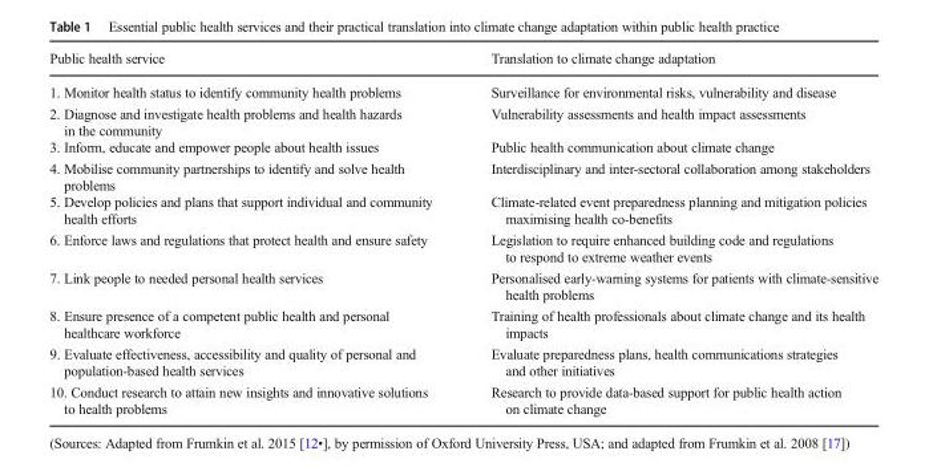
<table><thead><tr><td>Public health service</td><td>Translation to climate change adaptation</td></tr></thead><tbody><tr><td>1. Monitor health status to identify community health problems</td><td>Surveillance for environmental risks, vulnerability and disease</td></tr><tr><td>2. Diagnose and investigate health problems and health hazards in the community</td><td>Vulnerability assessments and health impact assessments</td></tr><tr><td>3. Inform, educate and empower people about health issues</td><td>Public health communication about climate change</td></tr><tr><td>4. Mobilise community partnerships to identify and solve health problems</td><td>Interdisciplinary and inter-sectoral collaboration among stakeholders</td></tr><tr><td>5. Develop policies and plans that support individual and community health efforts</td><td>Climate-related event preparedness planning and mitigation policies maximising health co-benefits</td></tr><tr><td>6. Enforce laws and regulations that protect health and ensure safety</td><td>Legislation to require enhanced building code and regulations to respond to extreme weather events</td></tr><tr><td>7. Link people to needed personal health services</td><td>Personalised early-warning systems for patients with climate-sensitive health problems</td></tr><tr><td>8. Ensure presence of a competent public health and personal healthcare workforce</td><td>Training of health professionals about climate change and its health impacts</td></tr><tr><td>9. Evaluate effectiveness, accessibility and quality of personal and population-based health services</td><td>Evaluate preparedness plans, health communications strategies and other initiatives</td></tr><tr><td>10. Conduct research to attain new insights and innovative solutions to health problems</td><td>Research to provide data-based support for public health action on climate change</td></tr></tbody></table>